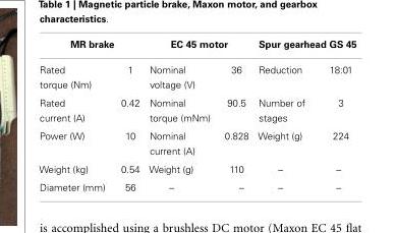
<table><thead><tr><td colspan="2">MR brake</td><td colspan="2">EC 45 motor</td><td colspan="2">Spur gearhead GS 45</td></tr><tr><td>Rated torque (Nm)</td><td>1</td><td>Nominal voltage (V)</td><td>36</td><td>Reduction</td><td>18:01</td></tr></thead><tbody><tr><td>Rated current (A)</td><td>0.42</td><td>Nominal torque (mNm)</td><td>90.5</td><td>Number of stages</td><td>3</td></tr><tr><td>Power (W)</td><td>10</td><td>Nominal current (A)</td><td>0.828</td><td>Weight (g)</td><td>224</td></tr><tr><td>Weight (kg)</td><td>0.54</td><td>Weight (g)</td><td>110</td><td>–</td><td>–</td></tr><tr><td>Diameter (mm)</td><td>56</td><td>–</td><td>–</td><td>–</td><td>–</td></tr></tbody></table>